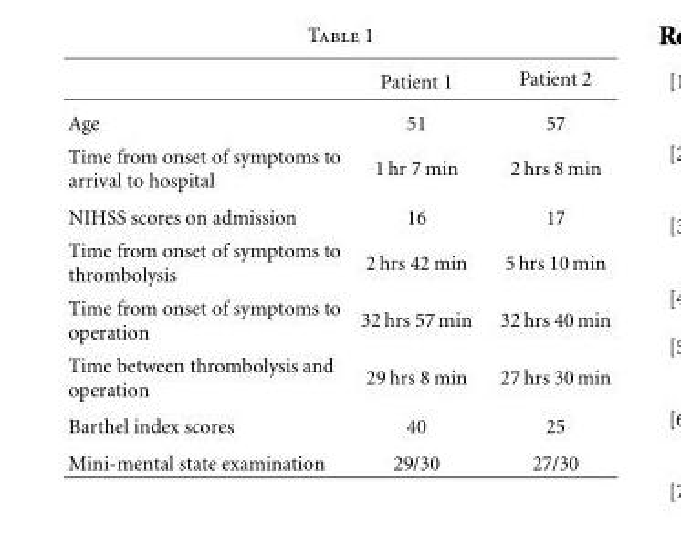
<table><thead><tr><td></td><td>Patient 1</td><td>Patient 2</td></tr></thead><tbody><tr><td>Age</td><td>51</td><td>57</td></tr><tr><td>Time from onset of symptoms to arrival to hospital</td><td>1 hr 7 min</td><td>2 hrs 8 min</td></tr><tr><td>NIHSS scores on admission</td><td>16</td><td>17</td></tr><tr><td>Time from onset of symptoms to thrombolysis</td><td>2 hrs 42 min</td><td>5 hrs 10 min</td></tr><tr><td>Time from onset of symptoms to operation</td><td>32 hrs 57 min</td><td>32 hrs 40 min</td></tr><tr><td>Time between thrombolysis and operation</td><td>29 hrs 8 min</td><td>27 hrs 30 min</td></tr><tr><td>Barthel index scores</td><td>40</td><td>25</td></tr><tr><td>Mini-mental state examination</td><td>29/30</td><td>27/30</td></tr></tbody></table>